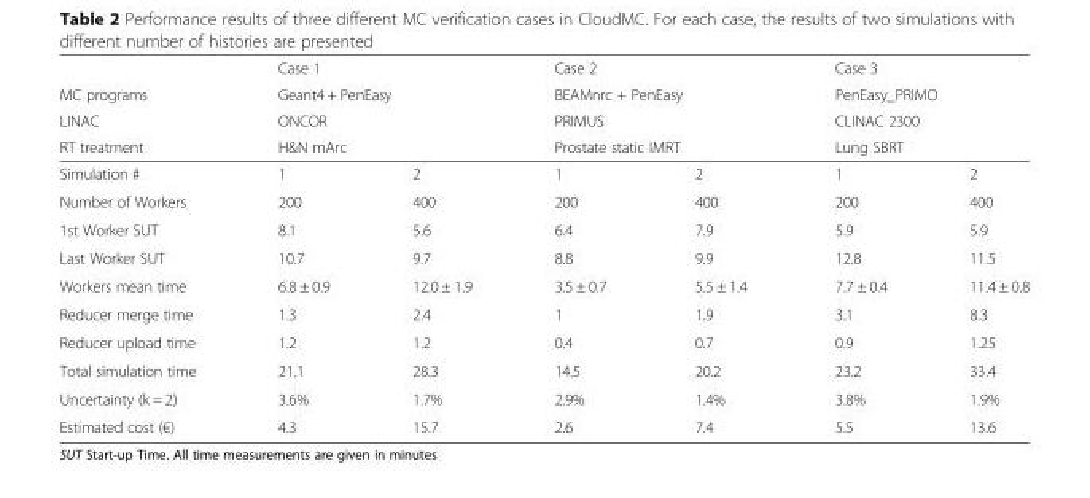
<table><thead><tr><td rowspan="5">MC programs LINAC RT treatment Simulation #</td><td rowspan="4" colspan="2">Case 1 Geant4 + PenEasy ONCOR H&amp;N mArc</td><td rowspan="4" colspan="2">Case 2 BEAMnrc + PenEasy PRIMUS Prostate static IMRT</td><td rowspan="4" colspan="2">Case 3 PenEasy_PRIMO CLINAC 2300 Lung SBRT</td></tr><tr></tr><tr></tr><tr></tr><tr><td>1</td><td>2</td><td>1</td><td>2</td><td>1</td><td>2</td></tr></thead><tbody><tr><td>Number of Workers</td><td>200</td><td>400</td><td>200</td><td>400</td><td>200</td><td>400</td></tr><tr><td>1st Worker SUT</td><td>8.1</td><td>5.6</td><td>6.4</td><td>7.9</td><td>5.9</td><td>5.9</td></tr><tr><td>Last Worker SUT</td><td>10.7</td><td>9.7</td><td>8.8</td><td>9.9</td><td>12.8</td><td>11.5</td></tr><tr><td>Workers mean time</td><td>6.8 ± 0.9</td><td>12.0 ± 1.9</td><td>3.5 ± 0.7</td><td>5.5 ± 1.4</td><td>7.7 ± 0.4</td><td>11.4 ± 0.8</td></tr><tr><td>Reducer merge time</td><td>1.3</td><td>2.4</td><td>1</td><td>1.9</td><td>3.1</td><td>8.3</td></tr><tr><td>Reducer upload time</td><td>1.2</td><td>1.2</td><td>0.4</td><td>0.7</td><td>0.9</td><td>1.25</td></tr><tr><td>Total simulation time</td><td>21.1</td><td>28.3</td><td>14.5</td><td>20.2</td><td>23.2</td><td>33.4</td></tr><tr><td>Uncertainty (k = 2)</td><td>3.6%</td><td>1.7%</td><td>2.9%</td><td>1.4%</td><td>3.8%</td><td>1.9%</td></tr><tr><td>Estimated cost (€)</td><td>4.3</td><td>15.7</td><td>2.6</td><td>7.4</td><td>5.5</td><td>13.6</td></tr></tbody></table>